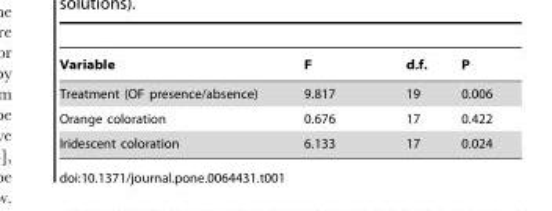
<table><thead><tr><td>Variable</td><td>F</td><td>d.f.</td><td>P</td></tr></thead><tbody><tr><td>Treatment (OF presence/absence)</td><td>9.817</td><td>19</td><td>0.006</td></tr><tr><td>Orange coloration</td><td>0.676</td><td>17</td><td>0.422</td></tr><tr><td>Iridescent coloration</td><td>6.133</td><td>17</td><td>0.024</td></tr></tbody></table>